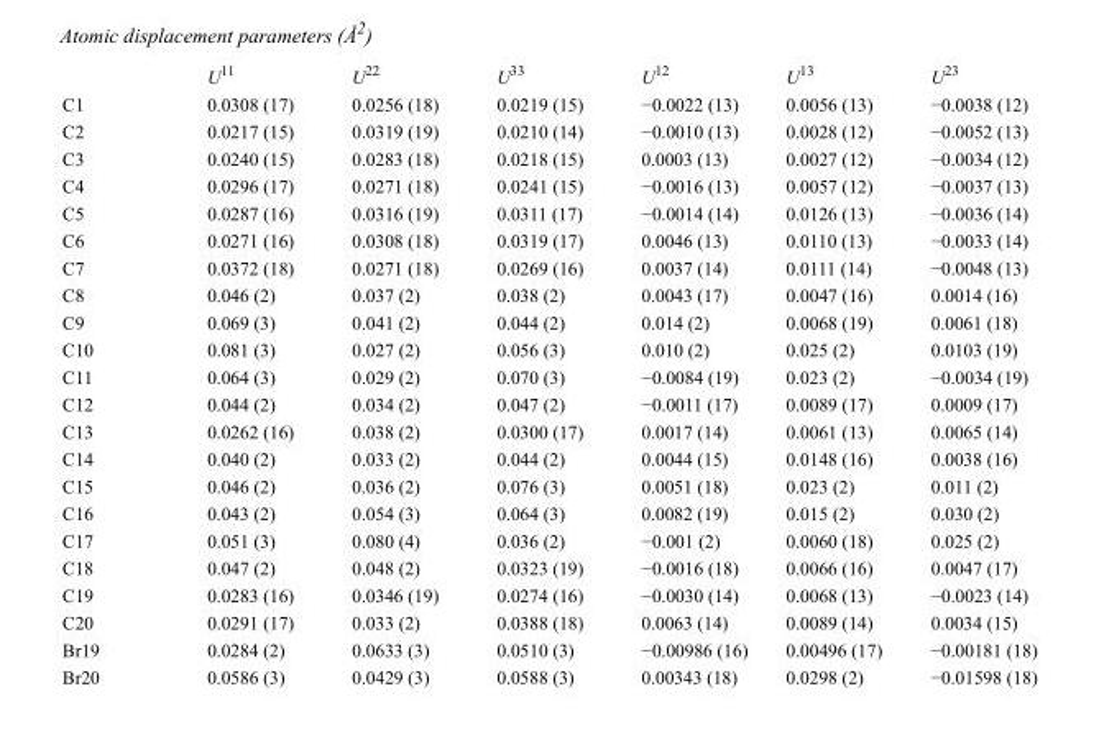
<table><thead><tr><td></td><td>U<sup>11</sup></td><td>U<sup>22</sup></td><td>U<sup>33</sup></td><td>U<sup>12</sup></td><td>U<sup>13</sup></td><td>U<sup>23</sup></td></tr></thead><tbody><tr><td>C1</td><td>0.0308 (17)</td><td>0.0256 (18)</td><td>0.0219 (15)</td><td>−0.0022 (13)</td><td>0.0056 (13)</td><td>−0.0038 (12)</td></tr><tr><td>C2</td><td>0.0217 (15)</td><td>0.0319 (19)</td><td>0.0210 (14)</td><td>−0.0010 (13)</td><td>0.0028 (12)</td><td>−0.0052 (13)</td></tr><tr><td>C3</td><td>0.0240 (15)</td><td>0.0283 (18)</td><td>0.0218 (15)</td><td>0.0003 (13)</td><td>0.0027 (12)</td><td>−0.0034 (12)</td></tr><tr><td>C4</td><td>0.0296 (17)</td><td>0.0271 (18)</td><td>0.0241 (15)</td><td>−0.0016 (13)</td><td>0.0057 (12)</td><td>−0.0037 (13)</td></tr><tr><td>C5</td><td>0.0287 (16)</td><td>0.0316 (19)</td><td>0.0311 (17)</td><td>−0.0014 (14)</td><td>0.0126 (13)</td><td>−0.0036 (14)</td></tr><tr><td>C6</td><td>0.0271 (16)</td><td>0.0308 (18)</td><td>0.0319 (17)</td><td>0.0046 (13)</td><td>0.0110 (13)</td><td>−0.0033 (14)</td></tr><tr><td>C7</td><td>0.0372 (18)</td><td>0.0271 (18)</td><td>0.0269 (16)</td><td>0.0037 (14)</td><td>0.0111 (14)</td><td>−0.0048 (13)</td></tr><tr><td>C8</td><td>0.046 (2)</td><td>0.037 (2)</td><td>0.038 (2)</td><td>0.0043 (17)</td><td>0.0047 (16)</td><td>0.0014 (16)</td></tr><tr><td>C9</td><td>0.069 (3)</td><td>0.041 (2)</td><td>0.044 (2)</td><td>0.014 (2)</td><td>0.0068 (19)</td><td>0.0061 (18)</td></tr><tr><td>C10</td><td>0.081 (3)</td><td>0.027 (2)</td><td>0.056 (3)</td><td>0.010 (2)</td><td>0.025 (2)</td><td>0.0103 (19)</td></tr><tr><td>C11</td><td>0.064 (3)</td><td>0.029 (2)</td><td>0.070 (3)</td><td>−0.0084 (19)</td><td>0.023 (2)</td><td>−0.0034 (19)</td></tr><tr><td>C12</td><td>0.044 (2)</td><td>0.034 (2)</td><td>0.047 (2)</td><td>−0.0011 (17)</td><td>0.0089 (17)</td><td>0.0009 (17)</td></tr><tr><td>C13</td><td>0.0262 (16)</td><td>0.038 (2)</td><td>0.0300 (17)</td><td>0.0017 (14)</td><td>0.0061 (13)</td><td>0.0065 (14)</td></tr><tr><td>C14</td><td>0.040 (2)</td><td>0.033 (2)</td><td>0.044 (2)</td><td>0.0044 (15)</td><td>0.0148 (16)</td><td>0.0038 (16)</td></tr><tr><td>C15</td><td>0.046 (2)</td><td>0.036 (2)</td><td>0.076 (3)</td><td>0.0051 (18)</td><td>0.023 (2)</td><td>0.011 (2)</td></tr><tr><td>C16</td><td>0.043 (2)</td><td>0.054 (3)</td><td>0.064 (3)</td><td>0.0082 (19)</td><td>0.015 (2)</td><td>0.030 (2)</td></tr><tr><td>C17</td><td>0.051 (3)</td><td>0.080 (4)</td><td>0.036 (2)</td><td>−0.001 (2)</td><td>0.0060 (18)</td><td>0.025 (2)</td></tr><tr><td>C18</td><td>0.047 (2)</td><td>0.048 (2)</td><td>0.0323 (19)</td><td>−0.0016 (18)</td><td>0.0066 (16)</td><td>0.0047 (17)</td></tr><tr><td>C19</td><td>0.0283 (16)</td><td>0.0346 (19)</td><td>0.0274 (16)</td><td>−0.0030 (14)</td><td>0.0068 (13)</td><td>−0.0023 (14)</td></tr><tr><td>C20</td><td>0.0291 (17)</td><td>0.033 (2)</td><td>0.0388 (18)</td><td>0.0063 (14)</td><td>0.0089 (14)</td><td>0.0034 (15)</td></tr><tr><td>Br19</td><td>0.0284 (2)</td><td>0.0633 (3)</td><td>0.0510 (3)</td><td>−0.00986 (16)</td><td>0.00496 (17)</td><td>−0.00181 (18)</td></tr><tr><td>Br20</td><td>0.0586 (3)</td><td>0.0429 (3)</td><td>0.0588 (3)</td><td>0.00343 (18)</td><td>0.0298 (2)</td><td>−0.01598 (18)</td></tr></tbody></table>